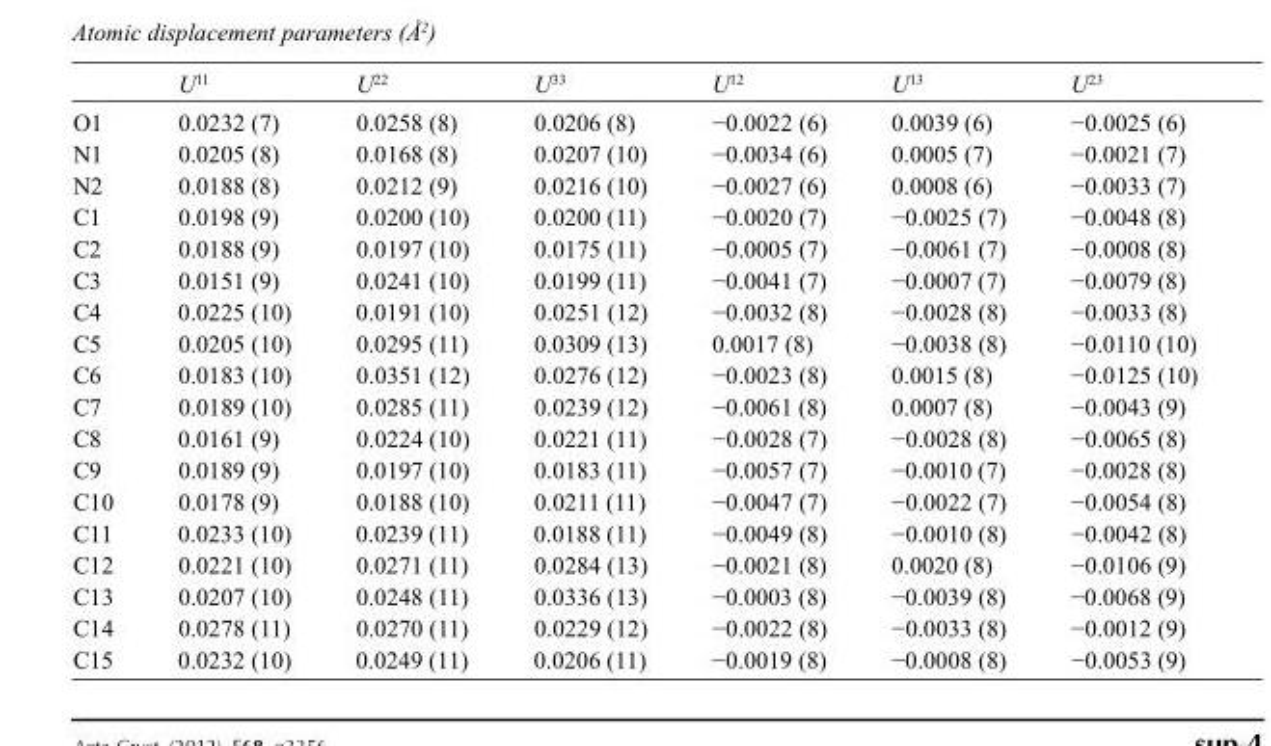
<table><thead><tr><td></td><td>U<sup>11</sup></td><td>U<sup>22</sup></td><td>U<sup>33</sup></td><td>U<sup>12</sup></td><td>U<sup>13</sup></td><td>U<sup>23</sup></td></tr></thead><tbody><tr><td>O1</td><td>0.0232 (7)</td><td>0.0258 (8)</td><td>0.0206 (8)</td><td>−0.0022 (6)</td><td>0.0039 (6)</td><td>−0.0025 (6)</td></tr><tr><td>N1</td><td>0.0205 (8)</td><td>0.0168 (8)</td><td>0.0207 (10)</td><td>−0.0034 (6)</td><td>0.0005 (7)</td><td>−0.0021 (7)</td></tr><tr><td>N2</td><td>0.0188 (8)</td><td>0.0212 (9)</td><td>0.0216 (10)</td><td>−0.0027 (6)</td><td>0.0008 (6)</td><td>−0.0033 (7)</td></tr><tr><td>C1</td><td>0.0198 (9)</td><td>0.0200 (10)</td><td>0.0200 (11)</td><td>−0.0020 (7)</td><td>−0.0025 (7)</td><td>−0.0048 (8)</td></tr><tr><td>C2</td><td>0.0188 (9)</td><td>0.0197 (10)</td><td>0.0175 (11)</td><td>−0.0005 (7)</td><td>−0.0061 (7)</td><td>−0.0008 (8)</td></tr><tr><td>C3</td><td>0.0151 (9)</td><td>0.0241 (10)</td><td>0.0199 (11)</td><td>−0.0041 (7)</td><td>−0.0007 (7)</td><td>−0.0079 (8)</td></tr><tr><td>C4</td><td>0.0225 (10)</td><td>0.0191 (10)</td><td>0.0251 (12)</td><td>−0.0032 (8)</td><td>−0.0028 (8)</td><td>−0.0033 (8)</td></tr><tr><td>C5</td><td>0.0205 (10)</td><td>0.0295 (11)</td><td>0.0309 (13)</td><td>0.0017 (8)</td><td>−0.0038 (8)</td><td>−0.0110 (10)</td></tr><tr><td>C6</td><td>0.0183 (10)</td><td>0.0351 (12)</td><td>0.0276 (12)</td><td>−0.0023 (8)</td><td>0.0015 (8)</td><td>−0.0125 (10)</td></tr><tr><td>C7</td><td>0.0189 (10)</td><td>0.0285 (11)</td><td>0.0239 (12)</td><td>−0.0061 (8)</td><td>0.0007 (8)</td><td>−0.0043 (9)</td></tr><tr><td>C8</td><td>0.0161 (9)</td><td>0.0224 (10)</td><td>0.0221 (11)</td><td>−0.0028 (7)</td><td>−0.0028 (8)</td><td>−0.0065 (8)</td></tr><tr><td>C9</td><td>0.0189 (9)</td><td>0.0197 (10)</td><td>0.0183 (11)</td><td>−0.0057 (7)</td><td>−0.0010 (7)</td><td>−0.0028 (8)</td></tr><tr><td>C10</td><td>0.0178 (9)</td><td>0.0188 (10)</td><td>0.0211 (11)</td><td>−0.0047 (7)</td><td>−0.0022 (7)</td><td>−0.0054 (8)</td></tr><tr><td>C11</td><td>0.0233 (10)</td><td>0.0239 (11)</td><td>0.0188 (11)</td><td>−0.0049 (8)</td><td>−0.0010 (8)</td><td>−0.0042 (8)</td></tr><tr><td>C12</td><td>0.0221 (10)</td><td>0.0271 (11)</td><td>0.0284 (13)</td><td>−0.0021 (8)</td><td>0.0020 (8)</td><td>−0.0106 (9)</td></tr><tr><td>C13</td><td>0.0207 (10)</td><td>0.0248 (11)</td><td>0.0336 (13)</td><td>−0.0003 (8)</td><td>−0.0039 (8)</td><td>−0.0068 (9)</td></tr><tr><td>C14</td><td>0.0278 (11)</td><td>0.0270 (11)</td><td>0.0229 (12)</td><td>−0.0022 (8)</td><td>−0.0033 (8)</td><td>−0.0012 (9)</td></tr><tr><td>C15</td><td>0.0232 (10)</td><td>0.0249 (11)</td><td>0.0206 (11)</td><td>−0.0019 (8)</td><td>−0.0008 (8)</td><td>−0.0053 (9)</td></tr></tbody></table>